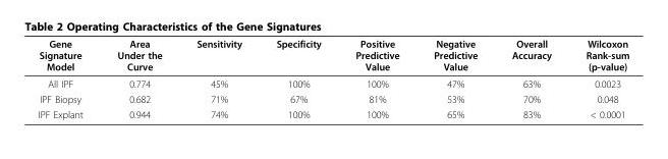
<table><thead><tr><td>Gene Signature Model</td><td>Area Under the Curve</td><td>Sensitivity</td><td>Specificity</td><td>Positive Predictive Value</td><td>Negative Predictive Value</td><td>Overall Accuracy</td><td>Wilcoxon Rank-sum (p-value)</td></tr></thead><tbody><tr><td>All IPF</td><td>0.774</td><td>45%</td><td>100%</td><td>100%</td><td>47%</td><td>63%</td><td>0.0023</td></tr><tr><td>IPF Biopsy</td><td>0.682</td><td>71%</td><td>67%</td><td>81%</td><td>53%</td><td>70%</td><td>0.048</td></tr><tr><td>IPF Explant</td><td>0.944</td><td>74%</td><td>100%</td><td>100%</td><td>65%</td><td>83%</td><td>&lt; 0.0001</td></tr></tbody></table>